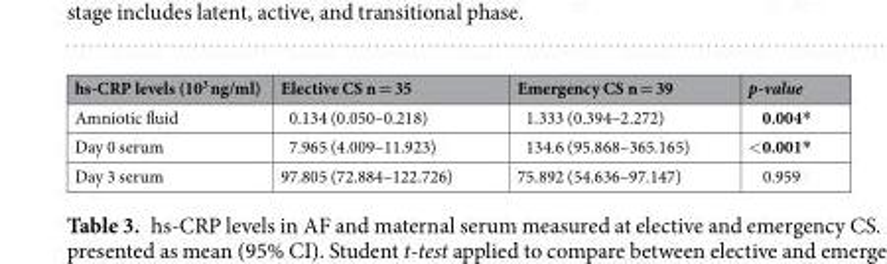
<table><thead><tr><td>hs-CRP levels (10<sup>3</sup> ng/ml)</td><td>Elective CS n = 35</td><td>Emergency CS n = 39</td><td>p-value</td></tr></thead><tbody><tr><td>Amniotic fluid</td><td>0.134 (0.050–0.218)</td><td>1.333 (0.394–2.272)</td><td>0.004*</td></tr><tr><td>Day 0 serum</td><td>7.965 (4.009–11.923)</td><td>134.6 (95.868–365.165)</td><td>&lt;0.001*</td></tr><tr><td>Day 3 serum</td><td>97.805 (72.884–122.726)</td><td>75.892 (54.636–97.147)</td><td>0.959</td></tr></tbody></table>